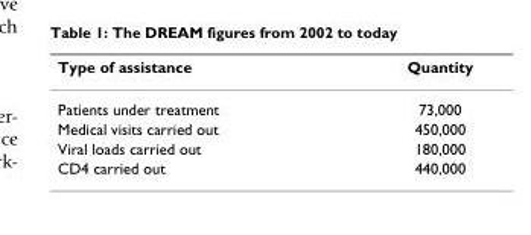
<table><thead><tr><td>Type of assistance</td><td>Quantity</td></tr></thead><tbody><tr><td>Patients under treatment</td><td>73,000</td></tr><tr><td>Medical visits carried out</td><td>450,000</td></tr><tr><td>Viral loads carried out</td><td>180,000</td></tr><tr><td>CD4 carried out</td><td>440,000</td></tr></tbody></table>